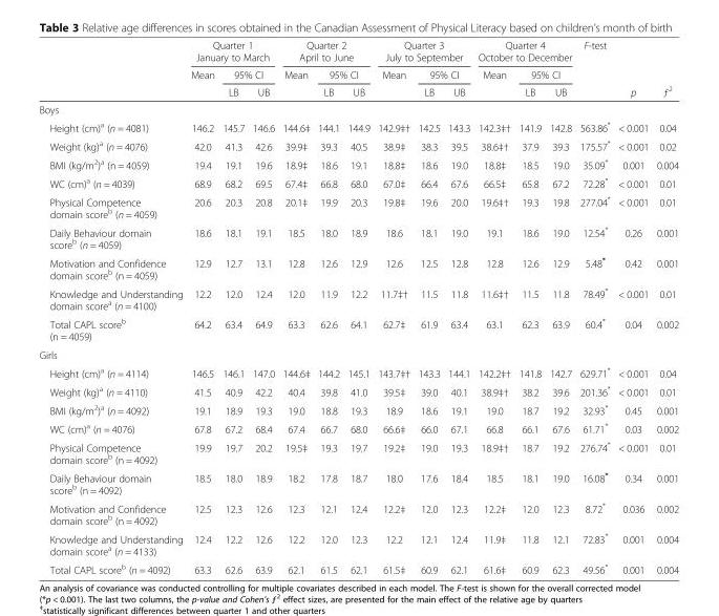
<table><thead><tr><td rowspan="3"></td><td colspan="3">Quarter 1 January to March</td><td colspan="3">Quarter 2 April to June</td><td colspan="3">Quarter 3 July to September</td><td colspan="3">Quarter 4 October to December</td><td rowspan="3">F-test</td><td rowspan="3">p</td><td rowspan="3">ƒ<sup>2</sup></td></tr><tr><td rowspan="2">Mean</td><td colspan="2">95% CI</td><td rowspan="2">Mean</td><td colspan="2">95% CI</td><td rowspan="2">Mean</td><td colspan="2">95% CI</td><td rowspan="2">Mean</td><td colspan="2">95% CI</td></tr><tr><td>LB</td><td>UB</td><td>LB</td><td>UB</td><td>LB</td><td>UB</td><td>LB</td><td>UB</td></tr></thead><tbody><tr><td colspan="16">Boys</td></tr><tr><td>Height (cm)<sup>a</sup> (n = 4081)</td><td>146.2</td><td>145.7</td><td>146.6</td><td>144.6‡</td><td>144.1</td><td>144.9</td><td>142.9‡†</td><td>142.5</td><td>143.3</td><td>142.3‡†</td><td>141.9</td><td>142.8</td><td>563.86*</td><td>&lt; 0.001</td><td>0.04</td></tr><tr><td>Weight (kg)<sup>a</sup> (n = 4076)</td><td>42.0</td><td>41.3</td><td>42.6</td><td>39.9‡</td><td>39.3</td><td>40.5</td><td>38.9‡</td><td>38.3</td><td>39.5</td><td>38.6‡†</td><td>37.9</td><td>39.3</td><td>175.57*</td><td>&lt; 0.001</td><td>0.02</td></tr><tr><td>BMI (kg/m<sup>2</sup>)<sup>a</sup> (n = 4059)</td><td>19.4</td><td>19.1</td><td>19.6</td><td>18.9‡</td><td>18.6</td><td>19.1</td><td>18.8‡</td><td>18.6</td><td>19.0</td><td>18.8‡</td><td>18.5</td><td>19.0</td><td>35.09*</td><td>0.001</td><td>0.004</td></tr><tr><td>WC (cm)<sup>a</sup> (n = 4039)</td><td>68.9</td><td>68.2</td><td>69.5</td><td>67.4‡</td><td>66.8</td><td>68.0</td><td>67.0‡</td><td>66.4</td><td>67.6</td><td>66.5‡</td><td>65.8</td><td>67.2</td><td>72.28*</td><td>&lt; 0.001</td><td>0.01</td></tr><tr><td>Physical Competence domain score<sup>b</sup> (n = 4059)</td><td>20.6</td><td>20.3</td><td>20.8</td><td>20.1‡</td><td>19.9</td><td>20.3</td><td>19.8‡</td><td>19.6</td><td>20.0</td><td>19.6‡†</td><td>19.3</td><td>19.8</td><td>277.04*</td><td>&lt; 0.001</td><td>0.01</td></tr><tr><td>Daily Behaviour domain score<sup>b</sup> (n = 4059)</td><td>18.6</td><td>18.1</td><td>19.1</td><td>18.5</td><td>18.0</td><td>18.9</td><td>18.6</td><td>18.1</td><td>19.0</td><td>19.1</td><td>18.6</td><td>19.0</td><td>12.54*</td><td>0.26</td><td>0.001</td></tr><tr><td>Motivation and Confidence domain score<sup>b</sup> (n = 4059)</td><td>12.9</td><td>12.7</td><td>13.1</td><td>12.8</td><td>12.6</td><td>12.9</td><td>12.6</td><td>12.5</td><td>12.8</td><td>12.8</td><td>12.6</td><td>12.9</td><td>5.48*</td><td>0.42</td><td>0.001</td></tr><tr><td>Knowledge and Understanding domain score<sup>a</sup> (n = 4100)</td><td>12.2</td><td>12.0</td><td>12.4</td><td>12.0</td><td>11.9</td><td>12.2</td><td>11.7‡†</td><td>11.5</td><td>11.8</td><td>11.6‡†</td><td>11.5</td><td>11.8</td><td>78.49*</td><td>&lt; 0.001</td><td>0.01</td></tr><tr><td>Total CAPL score<sup>b</sup> (n = 4059)</td><td>64.2</td><td>63.4</td><td>64.9</td><td>63.3</td><td>62.6</td><td>64.1</td><td>62.7‡</td><td>61.9</td><td>63.4</td><td>63.1</td><td>62.3</td><td>63.9</td><td>60.4*</td><td>0.04</td><td>0.002</td></tr><tr><td colspan="16">Girls</td></tr><tr><td>Height (cm)<sup>a</sup> (n = 4114)</td><td>146.5</td><td>146.1</td><td>147.0</td><td>144.6‡</td><td>144.2</td><td>145.1</td><td>143.7‡†</td><td>143.3</td><td>144.1</td><td>142.2‡†</td><td>141.8</td><td>142.7</td><td>629.71*</td><td>&lt; 0.001</td><td>0.04</td></tr><tr><td>Weight (kg)<sup>a</sup> (n = 4110)</td><td>41.5</td><td>40.9</td><td>42.2</td><td>40.4</td><td>39.8</td><td>41.0</td><td>39.5‡</td><td>39.0</td><td>40.1</td><td>38.9‡†</td><td>38.2</td><td>39.6</td><td>201.36*</td><td>&lt; 0.001</td><td>0.01</td></tr><tr><td>BMI (kg/m<sup>2</sup>)<sup>a</sup> (n = 4092)</td><td>19.1</td><td>18.9</td><td>19.3</td><td>19.0</td><td>18.8</td><td>19.3</td><td>18.9</td><td>18.6</td><td>19.1</td><td>19.0</td><td>18.7</td><td>19.2</td><td>32.93*</td><td>0.45</td><td>0.001</td></tr><tr><td>WC (cm)<sup>a</sup> (n = 4076)</td><td>67.8</td><td>67.2</td><td>68.4</td><td>67.4</td><td>66.7</td><td>68.0</td><td>66.6‡</td><td>66.0</td><td>67.1</td><td>66.8</td><td>66.1</td><td>67.6</td><td>61.71*</td><td>0.03</td><td>0.002</td></tr><tr><td>Physical Competence domain score<sup>b</sup> (n = 4092)</td><td>19.9</td><td>19.7</td><td>20.2</td><td>19.5‡</td><td>19.3</td><td>19.7</td><td>19.2‡</td><td>19.0</td><td>19.3</td><td>18.9‡†</td><td>18.7</td><td>19.2</td><td>276.74*</td><td>&lt; 0.001</td><td>0.01</td></tr><tr><td>Daily Behaviour domain score<sup>b</sup> (n = 4092)</td><td>18.5</td><td>18.0</td><td>18.9</td><td>18.2</td><td>17.8</td><td>18.7</td><td>18.0</td><td>17.6</td><td>18.4</td><td>18.5</td><td>18.1</td><td>19.0</td><td>16.08*</td><td>0.34</td><td>0.001</td></tr><tr><td>Motivation and Confidence domain score<sup>b</sup> (n = 4092)</td><td>12.5</td><td>12.3</td><td>12.6</td><td>12.3</td><td>12.1</td><td>12.4</td><td>12.2‡</td><td>12.0</td><td>12.3</td><td>12.2‡</td><td>12.0</td><td>12.3</td><td>8.72*</td><td>0.036</td><td>0.002</td></tr><tr><td>Knowledge and Understanding domain score<sup>a</sup> (n = 4133)</td><td>12.4</td><td>12.2</td><td>12.6</td><td>12.2</td><td>12.0</td><td>12.3</td><td>12.2</td><td>12.1</td><td>12.4</td><td>11.9‡</td><td>11.8</td><td>12.1</td><td>72.83*</td><td>0.001</td><td>0.004</td></tr><tr><td>Total CAPL score<sup>b</sup> (n = 4092)</td><td>63.3</td><td>62.6</td><td>63.9</td><td>62.1</td><td>61.5</td><td>62.1</td><td>61.5‡</td><td>60.9</td><td>62.1</td><td>61.6‡</td><td>60.9</td><td>62.3</td><td>49.56*</td><td>0.001</td><td>0.004</td></tr></tbody></table>